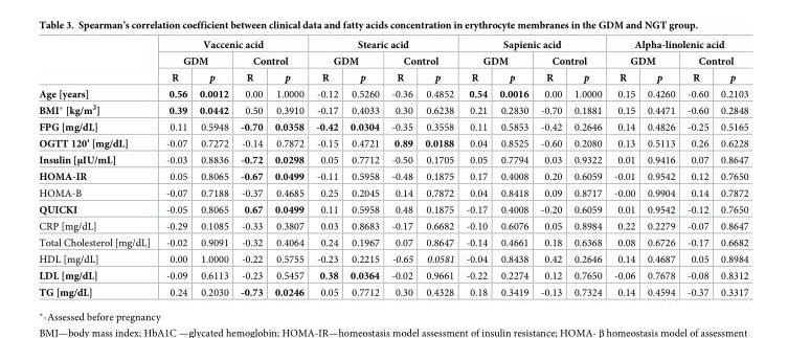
<table><thead><tr><td rowspan="3"></td><td colspan="4">Vaccenic acid</td><td colspan="4">Stearic acid</td><td colspan="4">Sapienic acid</td><td colspan="4">Alpha-linolenic acid</td></tr><tr><td colspan="2">GDM</td><td colspan="2">Control</td><td colspan="2">GDM</td><td colspan="2">Control</td><td colspan="2">GDM</td><td colspan="2">Control</td><td colspan="2">GDM</td><td colspan="2">Control</td></tr><tr><td>R</td><td>p</td><td>R</td><td>p</td><td>R</td><td>p</td><td>R</td><td>p</td><td>R</td><td>p</td><td>R</td><td>p</td><td>R</td><td>p</td><td>R</td><td>p</td></tr></thead><tbody><tr><td>Age [years]</td><td>0.56</td><td>0.0012</td><td>0.00</td><td>1.0000</td><td>-0.12</td><td>0.5260</td><td>-0.36</td><td>0.4852</td><td>0.54</td><td>0.0016</td><td>0.00</td><td>1.0000</td><td>0.15</td><td>0.4260</td><td>-0.60</td><td>0.2103</td></tr><tr><td>BMI* [kg/m<sup>2</sup>]</td><td>0.39</td><td>0.0442</td><td>0.50</td><td>0.3910</td><td>-0.17</td><td>0.4033</td><td>0.30</td><td>0.6238</td><td>0.21</td><td>0.2830</td><td>-0.70</td><td>0.1881</td><td>0.15</td><td>0.4471</td><td>-0.60</td><td>0.2848</td></tr><tr><td>FPG [mg/dL]</td><td>0.11</td><td>0.5948</td><td>-0.70</td><td>0.0358</td><td>-0.42</td><td>0.0304</td><td>-0.35</td><td>0.3558</td><td>0.11</td><td>0.5853</td><td>-0.42</td><td>0.2646</td><td>0.14</td><td>0.4826</td><td>-0.25</td><td>0.5165</td></tr><tr><td>OGTT 120’ [mg/dL]</td><td>-0.07</td><td>0.7272</td><td>-0.14</td><td>0.7872</td><td>-0.15</td><td>0.4721</td><td>0.89</td><td>0.0188</td><td>0.04</td><td>0.8525</td><td>-0.60</td><td>0.2080</td><td>0.13</td><td>0.5113</td><td>0.26</td><td>0.6228</td></tr><tr><td>Insulin [μIU/mL]</td><td>-0.03</td><td>0.8836</td><td>-0.72</td><td>0.0298</td><td>0.05</td><td>0.7712</td><td>-0.50</td><td>0.1705</td><td>0.05</td><td>0.7794</td><td>0.03</td><td>0.9322</td><td>0.01</td><td>0.9416</td><td>0.07</td><td>0.8647</td></tr><tr><td>HOMA-IR</td><td>0.05</td><td>0.8065</td><td>-0.67</td><td>0.0499</td><td>-0.11</td><td>0.5958</td><td>-0.48</td><td>0.1875</td><td>0.17</td><td>0.4008</td><td>0.20</td><td>0.6059</td><td>-0.01</td><td>0.9542</td><td>0.12</td><td>0.7650</td></tr><tr><td>HOMA-B</td><td>-0.07</td><td>0.7188</td><td>-0.37</td><td>0.4685</td><td>0.25</td><td>0.2045</td><td>0.14</td><td>0.7872</td><td>0.04</td><td>0.8418</td><td>0.09</td><td>0.8717</td><td>-0.00</td><td>0.9904</td><td>0.14</td><td>0.7872</td></tr><tr><td>QUICKI</td><td>-0.05</td><td>0.8065</td><td>0.67</td><td>0.0499</td><td>0.11</td><td>0.5958</td><td>0.48</td><td>0.1875</td><td>-0.17</td><td>0.4008</td><td>-0.20</td><td>0.6059</td><td>0.01</td><td>0.9542</td><td>-0.12</td><td>0.7650</td></tr><tr><td>CRP [mg/dL]</td><td>-0.29</td><td>0.1085</td><td>-0.33</td><td>0.3807</td><td>0.03</td><td>0.8683</td><td>-0.17</td><td>0.6682</td><td>-0.10</td><td>0.6076</td><td>0.05</td><td>0.8984</td><td>0.22</td><td>0.2279</td><td>-0.07</td><td>0.8647</td></tr><tr><td>Total Cholesterol [mg/dL]</td><td>-0.02</td><td>0.9091</td><td>-0.32</td><td>0.4064</td><td>0.24</td><td>0.1967</td><td>0.07</td><td>0.8647</td><td>-0.14</td><td>0.4661</td><td>0.18</td><td>0.6368</td><td>0.08</td><td>0.6726</td><td>-0.17</td><td>0.6682</td></tr><tr><td>HDL [mg/dL]</td><td>0.00</td><td>1.0000</td><td>-0.22</td><td>0.5755</td><td>-0.23</td><td>0.2215</td><td>-0.65</td><td>0.0581</td><td>-0.04</td><td>0.8438</td><td>0.42</td><td>0.2646</td><td>0.14</td><td>0.4687</td><td>0.05</td><td>0.8984</td></tr><tr><td>LDL [mg/dL]</td><td>-0.09</td><td>0.6113</td><td>-0.23</td><td>0.5457</td><td>0.38</td><td>0.0364</td><td>-0.02</td><td>0.9661</td><td>-0.22</td><td>0.2274</td><td>0.12</td><td>0.7650</td><td>-0.06</td><td>0.7678</td><td>-0.08</td><td>0.8312</td></tr><tr><td>TG [mg/dL]</td><td>0.24</td><td>0.2030</td><td>-0.73</td><td>0.0246</td><td>0.05</td><td>0.7712</td><td>0.30</td><td>0.4328</td><td>0.18</td><td>0.3419</td><td>-0.13</td><td>0.7324</td><td>0.14</td><td>0.4594</td><td>-0.37</td><td>0.3317</td></tr></tbody></table>